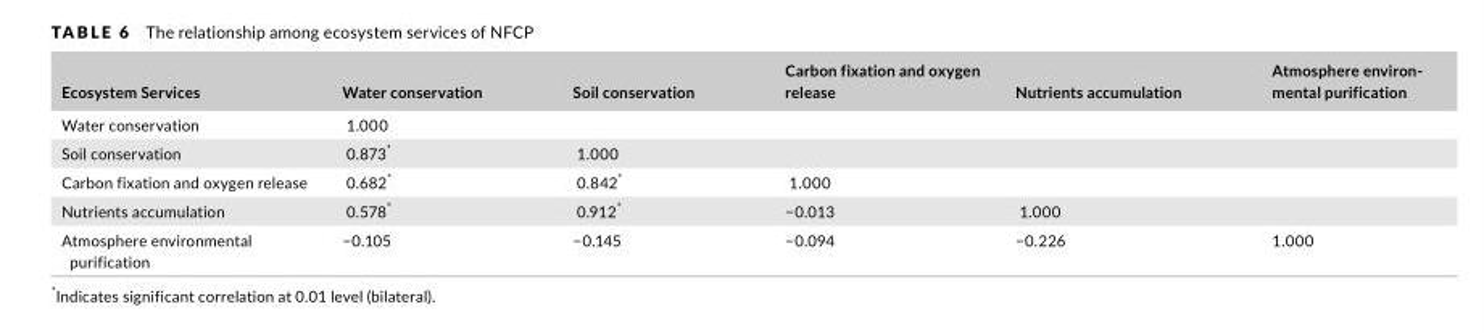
<table><thead><tr><td>Ecosystem Services</td><td>Water conservation</td><td>Soil conservation</td><td>Carbon fixation and oxygen release</td><td>Nutrients accumulation</td><td>Atmosphere environ‐ mental purification</td></tr></thead><tbody><tr><td>Water conservation</td><td>1.000</td><td></td><td></td><td></td><td></td></tr><tr><td>Soil conservation</td><td>0.873*</td><td>1.000</td><td></td><td></td><td></td></tr><tr><td>Carbon fixation and oxygen release</td><td>0.682*</td><td>0.842*</td><td>1.000</td><td></td><td></td></tr><tr><td>Nutrients accumulation</td><td>0.578*</td><td>0.912*</td><td>−0.013</td><td>1.000</td><td></td></tr><tr><td>Atmosphere environmental purification</td><td>−0.105</td><td>−0.145</td><td>−0.094</td><td>−0.226</td><td>1.000</td></tr></tbody></table>